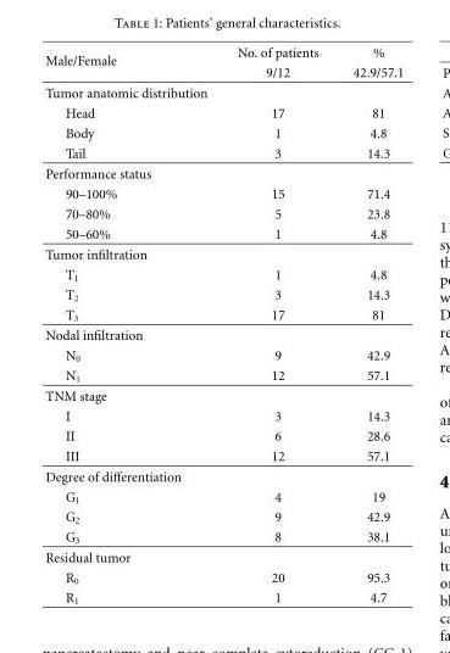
<table><thead><tr><td rowspan="2">Male/Female</td><td rowspan="2">No. of patients 9/12</td><td rowspan="2">% 42.9/57.1</td></tr><tr></tr></thead><tbody><tr><td colspan="3">Tumor anatomic distribution</td></tr><tr><td>Head</td><td>17</td><td>81</td></tr><tr><td>Body</td><td>1</td><td>4.8</td></tr><tr><td>Tail</td><td>3</td><td>14.3</td></tr><tr><td colspan="3">Performance status</td></tr><tr><td>90–100%</td><td>15</td><td>71.4</td></tr><tr><td>70–80%</td><td>5</td><td>23.8</td></tr><tr><td>50–60%</td><td>1</td><td>4.8</td></tr><tr><td colspan="3">Tumor infiltration</td></tr><tr><td>T<sub>1</sub></td><td>1</td><td>4.8</td></tr><tr><td>T<sub>2</sub></td><td>3</td><td>14.3</td></tr><tr><td>T<sub>3</sub></td><td>17</td><td>81</td></tr><tr><td colspan="3">Nodal infiltration</td></tr><tr><td>N<sub>0</sub></td><td>9</td><td>42.9</td></tr><tr><td>N<sub>1</sub></td><td>12</td><td>57.1</td></tr><tr><td colspan="3">TNM stage</td></tr><tr><td>I</td><td>3</td><td>14.3</td></tr><tr><td>II</td><td>6</td><td>28.6</td></tr><tr><td>III</td><td>12</td><td>57.1</td></tr><tr><td colspan="3">Degree of differentiation</td></tr><tr><td>G<sub>1</sub></td><td>4</td><td>19</td></tr><tr><td>G<sub>2</sub></td><td>9</td><td>42.9</td></tr><tr><td>G<sub>3</sub></td><td>8</td><td>38.1</td></tr><tr><td colspan="3">Residual tumor</td></tr><tr><td>R<sub>0</sub></td><td>20</td><td>95.3</td></tr><tr><td>R<sub>1</sub></td><td>1</td><td>4.7</td></tr></tbody></table>